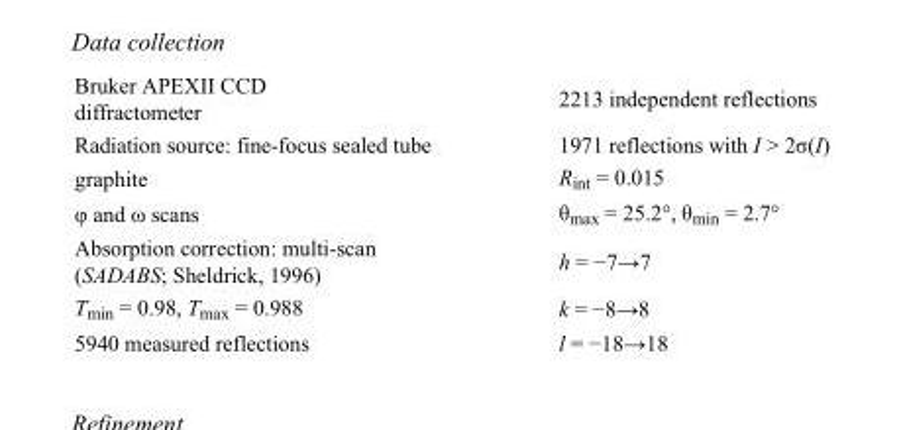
<table><tbody><tr><td>Bruker APEXII CCD diffractometer</td><td>2213 independent reflections</td></tr><tr><td>Radiation source: fine-focus sealed tube</td><td>1971 reflections with I &gt; 2σ(I)</td></tr><tr><td>graphite</td><td>R<sub>int</sub> = 0.015</td></tr><tr><td>φ and ω scans</td><td>θ<sub>max</sub> = 25.2°, θ<sub>min</sub> = 2.7°</td></tr><tr><td>Absorption correction: multi-scan (SADABS; Sheldrick, 1996)</td><td>h = −7→7</td></tr><tr><td>T<sub>min</sub> = 0.98, T<sub>max</sub> = 0.988</td><td>k = −8→8</td></tr><tr><td>5940 measured reflections</td><td>l = −18→18</td></tr></tbody></table>